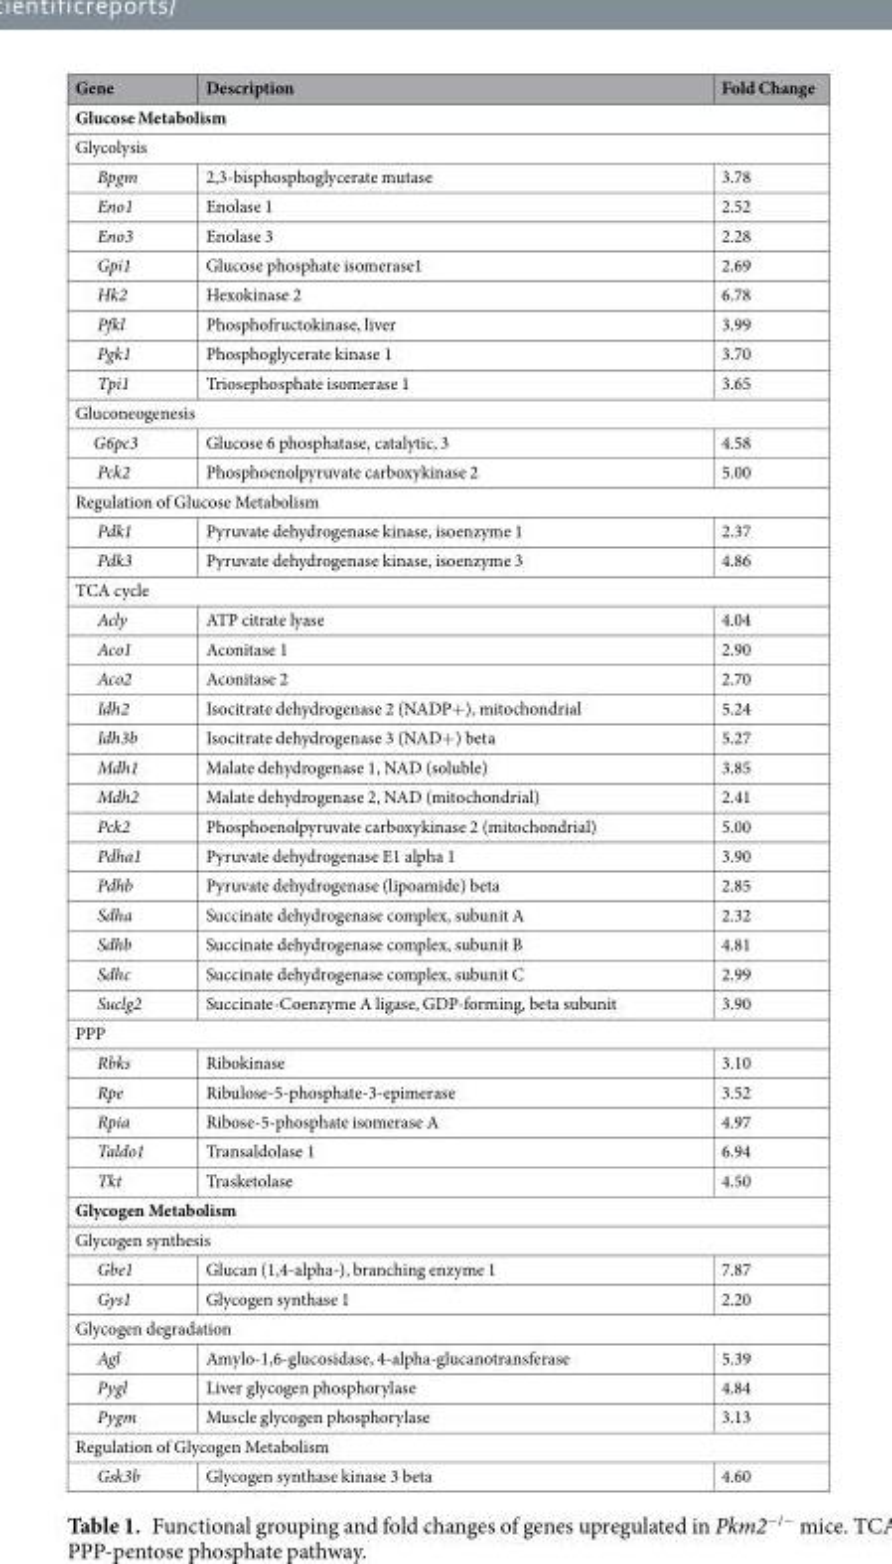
<table><thead><tr><td>Gene</td><td>Description</td><td>Fold Change</td></tr></thead><tbody><tr><td colspan="3">Glucose Metabolism</td></tr><tr><td colspan="3">Glycolysis</td></tr><tr><td>Bpgm</td><td>2,3-bisphosphoglycerate mutase</td><td>3.78</td></tr><tr><td>Eno1</td><td>Enolase 1</td><td>2.52</td></tr><tr><td>Eno3</td><td>Enolase 3</td><td>2.28</td></tr><tr><td>Gpi1</td><td>Glucose phosphate isomerase1</td><td>2.69</td></tr><tr><td>Hk2</td><td>Hexokinase 2</td><td>6.78</td></tr><tr><td>Pfkl</td><td>Phosphofructokinase, liver</td><td>3.99</td></tr><tr><td>Pgk1</td><td>Phosphoglycerate kinase 1</td><td>3.70</td></tr><tr><td>Tpi1</td><td>Triosephosphate isomerase 1</td><td>3.65</td></tr><tr><td colspan="3">Gluconeogenesis</td></tr><tr><td>G6pc3</td><td>Glucose 6 phosphatase, catalytic, 3</td><td>4.58</td></tr><tr><td>Pck2</td><td>Phosphoenolpyruvate carboxykinase 2</td><td>5.00</td></tr><tr><td colspan="3">Regulation of Glucose Metabolism</td></tr><tr><td>Pdk1</td><td>Pyruvate dehydrogenase kinase, isoenzyme 1</td><td>2.37</td></tr><tr><td>Pdk3</td><td>Pyruvate dehydrogenase kinase, isoenzyme 3</td><td>4.86</td></tr><tr><td colspan="3">TCA cycle</td></tr><tr><td>Acly</td><td>ATP citrate lyase</td><td>4.04</td></tr><tr><td>Aco1</td><td>Aconitase 1</td><td>2.90</td></tr><tr><td>Aco2</td><td>Aconitase 2</td><td>2.70</td></tr><tr><td>Idh2</td><td>Isocitrate dehydrogenase 2 (NADP+), mitochondrial</td><td>5.24</td></tr><tr><td>Idh3b</td><td>Isocitrate dehydrogenase 3 (NAD+) beta</td><td>5.27</td></tr><tr><td>Mdh1</td><td>Malate dehydrogenase 1, NAD (soluble)</td><td>3.85</td></tr><tr><td>Mdh2</td><td>Malate dehydrogenase 2, NAD (mitochondrial)</td><td>2.41</td></tr><tr><td>Pck2</td><td>Phosphoenolpyruvate carboxykinase 2 (mitochondrial)</td><td>5.00</td></tr><tr><td>Pdha1</td><td>Pyruvate dehydrogenase E1 alpha 1</td><td>3.90</td></tr><tr><td>Pdhb</td><td>Pyruvate dehydrogenase (lipoamide) beta</td><td>2.85</td></tr><tr><td>Sdha</td><td>Succinate dehydrogenase complex, subunit A</td><td>2.32</td></tr><tr><td>Sdhb</td><td>Succinate dehydrogenase complex, subunit B</td><td>4.81</td></tr><tr><td>Sdhc</td><td>Succinate dehydrogenase complex, subunit C</td><td>2.99</td></tr><tr><td>Suclg2</td><td>Succinate-Coenzyme A ligase, GDP-forming, beta subunit</td><td>3.90</td></tr><tr><td colspan="3">PPP</td></tr><tr><td>Rbks</td><td>Ribokinase</td><td>3.10</td></tr><tr><td>Rpe</td><td>Ribulose-5-phosphate-3-epimerase</td><td>3.52</td></tr><tr><td>Rpia</td><td>Ribose-5-phosphate isomerase A</td><td>4.97</td></tr><tr><td>Taldo1</td><td>Transaldolase 1</td><td>6.94</td></tr><tr><td>Tkt</td><td>Trasketolase</td><td>4.50</td></tr><tr><td colspan="3">Glycogen Metabolism</td></tr><tr><td colspan="3">Glycogen synthesis</td></tr><tr><td>Gbe1</td><td>Glucan (1,4-alpha-), branching enzyme 1</td><td>7.87</td></tr><tr><td>Gys1</td><td>Glycogen synthase 1</td><td>2.20</td></tr><tr><td colspan="3">Glycogen degradation</td></tr><tr><td>Agl</td><td>Amylo-1,6-glucosidase, 4-alpha-glucanotransferase</td><td>5.39</td></tr><tr><td>Pygl</td><td>Liver glycogen phosphorylase</td><td>4.84</td></tr><tr><td>Pygm</td><td>Muscle glycogen phosphorylase</td><td>3.13</td></tr><tr><td colspan="3">Regulation of Glycogen Metabolism</td></tr><tr><td>Gsk3b</td><td>Glycogen synthase kinase 3 beta</td><td>4.60</td></tr></tbody></table>